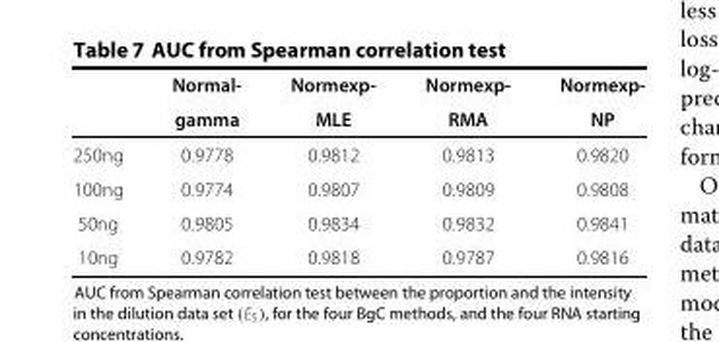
<table><thead><tr><td rowspan="2"></td><td rowspan="2">Normal- gamma</td><td rowspan="2">Normexp- MLE</td><td rowspan="2">Normexp- RMA</td><td rowspan="2">Normexp- NP</td></tr><tr></tr></thead><tbody><tr><td>250ng</td><td>0.9778</td><td>0.9812</td><td>0.9813</td><td>0.9820</td></tr><tr><td>100ng</td><td>0.9774</td><td>0.9807</td><td>0.9809</td><td>0.9808</td></tr><tr><td>50ng</td><td>0.9805</td><td>0.9834</td><td>0.9832</td><td>0.9841</td></tr><tr><td>10ng</td><td>0.9782</td><td>0.9818</td><td>0.9787</td><td>0.9816</td></tr></tbody></table>